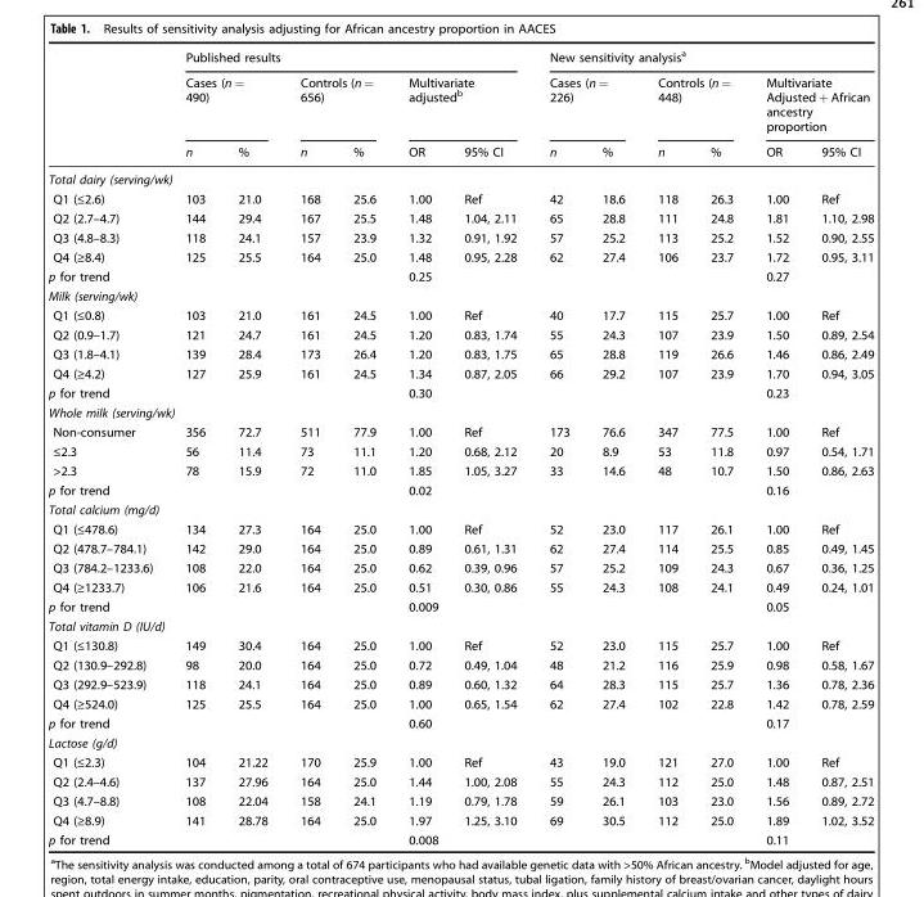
<table><thead><tr><td rowspan="3"></td><td colspan="6">Published results</td><td colspan="6">New sensitivity analysis<sup>a</sup></td></tr><tr><td colspan="2">Cases (n = 490)</td><td colspan="2">Controls (n = 656)</td><td colspan="2">Multivariate adjusted<sup>b</sup></td><td colspan="2">Cases (n = 226)</td><td colspan="2">Controls (n = 448)</td><td colspan="2">Multivariate Adjusted + African ancestry proportion</td></tr><tr><td>n</td><td>%</td><td>n</td><td>%</td><td>OR</td><td>95% CI</td><td>n</td><td>%</td><td>n</td><td>%</td><td>OR</td><td>95% CI</td></tr></thead><tbody><tr><td colspan="13">Total dairy (serving/wk)</td></tr><tr><td>Q1 (≤2.6)</td><td>103</td><td>21.0</td><td>168</td><td>25.6</td><td>1.00</td><td>Ref</td><td>42</td><td>18.6</td><td>118</td><td>26.3</td><td>1.00</td><td>Ref</td></tr><tr><td>Q2 (2.7–4.7)</td><td>144</td><td>29.4</td><td>167</td><td>25.5</td><td>1.48</td><td>1.04, 2.11</td><td>65</td><td>28.8</td><td>111</td><td>24.8</td><td>1.81</td><td>1.10, 2.98</td></tr><tr><td>Q3 (4.8–8.3)</td><td>118</td><td>24.1</td><td>157</td><td>23.9</td><td>1.32</td><td>0.91, 1.92</td><td>57</td><td>25.2</td><td>113</td><td>25.2</td><td>1.52</td><td>0.90, 2.55</td></tr><tr><td>Q4 (≥8.4)</td><td>125</td><td>25.5</td><td>164</td><td>25.0</td><td>1.48</td><td>0.95, 2.28</td><td>62</td><td>27.4</td><td>106</td><td>23.7</td><td>1.72</td><td>0.95, 3.11</td></tr><tr><td>p for trend</td><td colspan="4"></td><td colspan="2">0.25</td><td colspan="4"></td><td colspan="2">0.27</td></tr><tr><td colspan="13">Milk (serving/wk)</td></tr><tr><td>Q1 (≤0.8)</td><td>103</td><td>21.0</td><td>161</td><td>24.5</td><td>1.00</td><td>Ref</td><td>40</td><td>17.7</td><td>115</td><td>25.7</td><td>1.00</td><td>Ref</td></tr><tr><td>Q2 (0.9–1.7)</td><td>121</td><td>24.7</td><td>161</td><td>24.5</td><td>1.20</td><td>0.83, 1.74</td><td>55</td><td>24.3</td><td>107</td><td>23.9</td><td>1.50</td><td>0.89, 2.54</td></tr><tr><td>Q3 (1.8–4.1)</td><td>139</td><td>28.4</td><td>173</td><td>26.4</td><td>1.20</td><td>0.83, 1.75</td><td>65</td><td>28.8</td><td>119</td><td>26.6</td><td>1.46</td><td>0.86, 2.49</td></tr><tr><td>Q4 (≥4.2)</td><td>127</td><td>25.9</td><td>161</td><td>24.5</td><td>1.34</td><td>0.87, 2.05</td><td>66</td><td>29.2</td><td>107</td><td>23.9</td><td>1.70</td><td>0.94, 3.05</td></tr><tr><td>p for trend</td><td colspan="4"></td><td colspan="2">0.30</td><td colspan="4"></td><td colspan="2">0.23</td></tr><tr><td colspan="13">Whole milk (serving/wk)</td></tr><tr><td>Non-consumer</td><td>356</td><td>72.7</td><td>511</td><td>77.9</td><td>1.00</td><td>Ref</td><td>173</td><td>76.6</td><td>347</td><td>77.5</td><td>1.00</td><td>Ref</td></tr><tr><td>≤2.3</td><td>56</td><td>11.4</td><td>73</td><td>11.1</td><td>1.20</td><td>0.68, 2.12</td><td>20</td><td>8.9</td><td>53</td><td>11.8</td><td>0.97</td><td>0.54, 1.71</td></tr><tr><td>&gt;2.3</td><td>78</td><td>15.9</td><td>72</td><td>11.0</td><td>1.85</td><td>1.05, 3.27</td><td>33</td><td>14.6</td><td>48</td><td>10.7</td><td>1.50</td><td>0.86, 2.63</td></tr><tr><td>p for trend</td><td colspan="4"></td><td colspan="2">0.02</td><td colspan="4"></td><td colspan="2">0.16</td></tr><tr><td colspan="13">Total calcium (mg/d)</td></tr><tr><td>Q1 (≤478.6)</td><td>134</td><td>27.3</td><td>164</td><td>25.0</td><td>1.00</td><td>Ref</td><td>52</td><td>23.0</td><td>117</td><td>26.1</td><td>1.00</td><td>Ref</td></tr><tr><td>Q2 (478.7–784.1)</td><td>142</td><td>29.0</td><td>164</td><td>25.0</td><td>0.89</td><td>0.61, 1.31</td><td>62</td><td>27.4</td><td>114</td><td>25.5</td><td>0.85</td><td>0.49, 1.45</td></tr><tr><td>Q3 (784.2–1233.6)</td><td>108</td><td>22.0</td><td>164</td><td>25.0</td><td>0.62</td><td>0.39, 0.96</td><td>57</td><td>25.2</td><td>109</td><td>24.3</td><td>0.67</td><td>0.36, 1.25</td></tr><tr><td>Q4 (≥1233.7)</td><td>106</td><td>21.6</td><td>164</td><td>25.0</td><td>0.51</td><td>0.30, 0.86</td><td>55</td><td>24.3</td><td>108</td><td>24.1</td><td>0.49</td><td>0.24, 1.01</td></tr><tr><td>p for trend</td><td colspan="4"></td><td colspan="2">0.009</td><td colspan="4"></td><td colspan="2">0.05</td></tr><tr><td colspan="13">Total vitamin D (IU/d)</td></tr><tr><td>Q1 (≤130.8)</td><td>149</td><td>30.4</td><td>164</td><td>25.0</td><td>1.00</td><td>Ref</td><td>52</td><td>23.0</td><td>115</td><td>25.7</td><td>1.00</td><td>Ref</td></tr><tr><td>Q2 (130.9–292.8)</td><td>98</td><td>20.0</td><td>164</td><td>25.0</td><td>0.72</td><td>0.49, 1.04</td><td>48</td><td>21.2</td><td>116</td><td>25.9</td><td>0.98</td><td>0.58, 1.67</td></tr><tr><td>Q3 (292.9–523.9)</td><td>118</td><td>24.1</td><td>164</td><td>25.0</td><td>0.89</td><td>0.60, 1.32</td><td>64</td><td>28.3</td><td>115</td><td>25.7</td><td>1.36</td><td>0.78, 2.36</td></tr><tr><td>Q4 (≥524.0)</td><td>125</td><td>25.5</td><td>164</td><td>25.0</td><td>1.00</td><td>0.65, 1.54</td><td>62</td><td>27.4</td><td>102</td><td>22.8</td><td>1.42</td><td>0.78, 2.59</td></tr><tr><td>p for trend</td><td colspan="4"></td><td colspan="2">0.60</td><td colspan="4"></td><td colspan="2">0.17</td></tr><tr><td colspan="13">Lactose (g/d)</td></tr><tr><td>Q1 (≤2.3)</td><td>104</td><td>21.22</td><td>170</td><td>25.9</td><td>1.00</td><td>Ref</td><td>43</td><td>19.0</td><td>121</td><td>27.0</td><td>1.00</td><td>Ref</td></tr><tr><td>Q2 (2.4–4.6)</td><td>137</td><td>27.96</td><td>164</td><td>25.0</td><td>1.44</td><td>1.00, 2.08</td><td>55</td><td>24.3</td><td>112</td><td>25.0</td><td>1.48</td><td>0.87, 2.51</td></tr><tr><td>Q3 (4.7–8.8)</td><td>108</td><td>22.04</td><td>158</td><td>24.1</td><td>1.19</td><td>0.79, 1.78</td><td>59</td><td>26.1</td><td>103</td><td>23.0</td><td>1.56</td><td>0.89, 2.72</td></tr><tr><td>Q4 (≥8.9)</td><td>141</td><td>28.78</td><td>164</td><td>25.0</td><td>1.97</td><td>1.25, 3.10</td><td>69</td><td>30.5</td><td>112</td><td>25.0</td><td>1.89</td><td>1.02, 3.52</td></tr><tr><td>p for trend</td><td colspan="4"></td><td colspan="2">0.008</td><td colspan="4"></td><td colspan="2">0.11</td></tr></tbody></table>